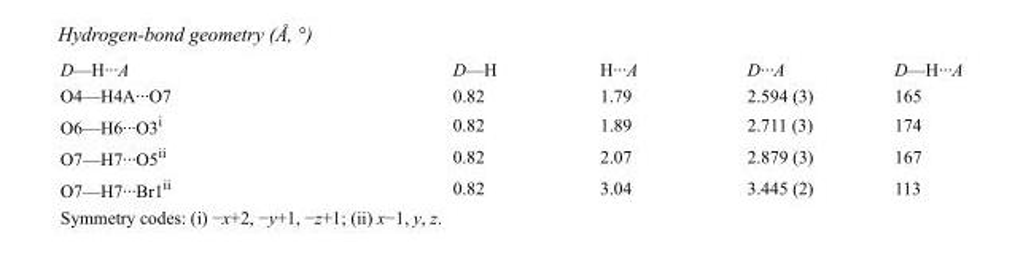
<table><tbody><tr><td>D—H···A</td><td>D—H</td><td>H···A</td><td>D···A</td><td>D—H···A</td></tr><tr><td>O4—H4A···O7</td><td>0.82</td><td>1.79</td><td>2.594 (3)</td><td>165</td></tr><tr><td>O6—H6···O3<sup>i</sup></td><td>0.82</td><td>1.89</td><td>2.711 (3)</td><td>174</td></tr><tr><td>O7—H7···O5<sup>ii</sup></td><td>0.82</td><td>2.07</td><td>2.879 (3)</td><td>167</td></tr><tr><td>O7—H7···Br1<sup>ii</sup></td><td>0.82</td><td>3.04</td><td>3.445 (2)</td><td>113</td></tr></tbody></table>